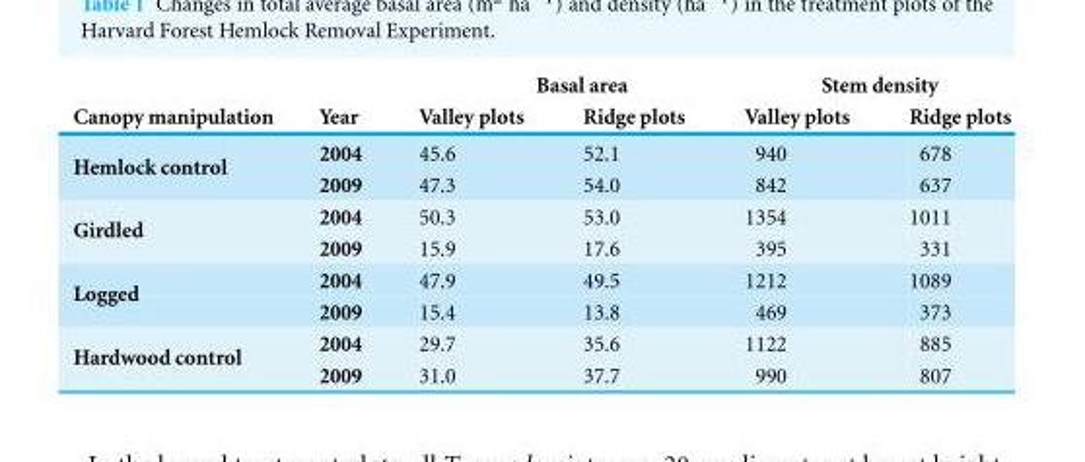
<table><thead><tr><td rowspan="2">Canopy manipulation</td><td rowspan="2">Year</td><td colspan="2">Basal area</td><td colspan="2">Stem density</td></tr><tr><td>Valley plots</td><td>Ridge plots</td><td>Valley plots</td><td>Ridge plots</td></tr></thead><tbody><tr><td rowspan="2">Hemlock control</td><td>2004</td><td>45.6</td><td>52.1</td><td>940</td><td>678</td></tr><tr><td>2009</td><td>47.3</td><td>54.0</td><td>842</td><td>637</td></tr><tr><td rowspan="2">Girdled</td><td>2004</td><td>50.3</td><td>53.0</td><td>1354</td><td>1011</td></tr><tr><td>2009</td><td>15.9</td><td>17.6</td><td>395</td><td>331</td></tr><tr><td rowspan="2">Logged</td><td>2004</td><td>47.9</td><td>49.5</td><td>1212</td><td>1089</td></tr><tr><td>2009</td><td>15.4</td><td>13.8</td><td>469</td><td>373</td></tr><tr><td rowspan="2">Hardwood control</td><td>2004</td><td>29.7</td><td>35.6</td><td>1122</td><td>885</td></tr><tr><td>2009</td><td>31.0</td><td>37.7</td><td>990</td><td>807</td></tr></tbody></table>